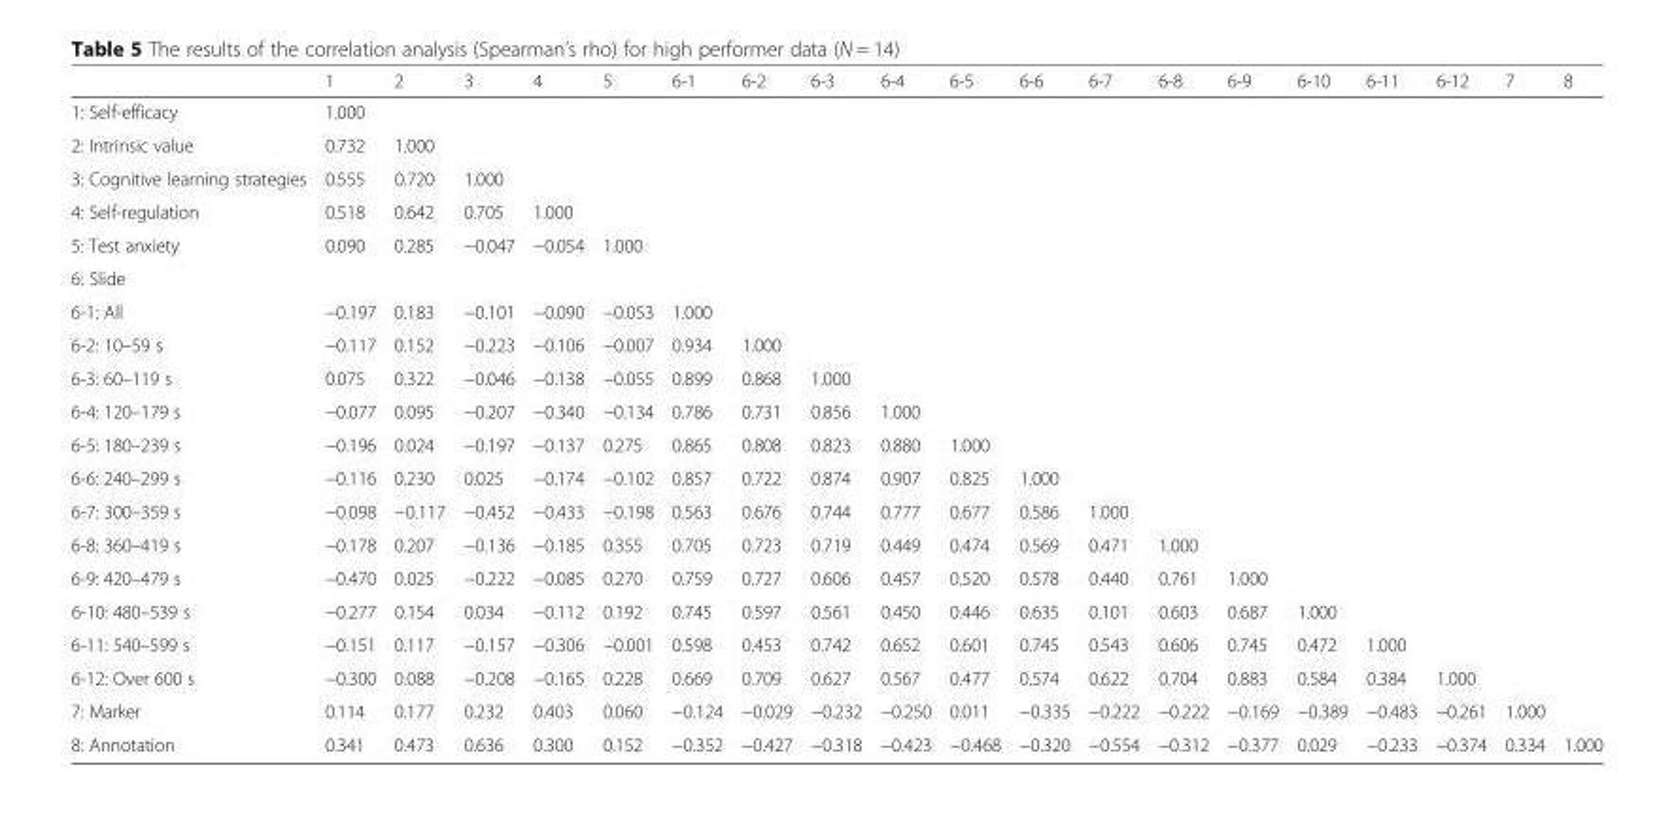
<table><thead><tr><td></td><td>1</td><td>2</td><td>3</td><td>4</td><td>5</td><td>6-1</td><td>6-2</td><td>6-3</td><td>6-4</td><td>6-5</td><td>6-6</td><td>6-7</td><td>6-8</td><td>6-9</td><td>6-10</td><td>6-11</td><td>6-12</td><td>7</td><td>8</td></tr></thead><tbody><tr><td>1: Self-efficacy</td><td>1.000</td><td></td><td></td><td></td><td></td><td></td><td></td><td></td><td></td><td></td><td></td><td></td><td></td><td></td><td></td><td></td><td></td><td></td><td></td></tr><tr><td>2: Intrinsic value</td><td>0.732</td><td>1.000</td><td></td><td></td><td></td><td></td><td></td><td></td><td></td><td></td><td></td><td></td><td></td><td></td><td></td><td></td><td></td><td></td><td></td></tr><tr><td>3: Cognitive learning strategies</td><td>0.555</td><td>0.720</td><td>1.000</td><td></td><td></td><td></td><td></td><td></td><td></td><td></td><td></td><td></td><td></td><td></td><td></td><td></td><td></td><td></td><td></td></tr><tr><td>4: Self-regulation</td><td>0.518</td><td>0.642</td><td>0.705</td><td>1.000</td><td></td><td></td><td></td><td></td><td></td><td></td><td></td><td></td><td></td><td></td><td></td><td></td><td></td><td></td><td></td></tr><tr><td>5: Test anxiety</td><td>0.090</td><td>0.285</td><td>−0.047</td><td>−0.054</td><td>1.000</td><td></td><td></td><td></td><td></td><td></td><td></td><td></td><td></td><td></td><td></td><td></td><td></td><td></td><td></td></tr><tr><td colspan="20">6: Slide</td></tr><tr><td>6-1: All</td><td>−0.197</td><td>0.183</td><td>−0.101</td><td>−0.090</td><td>−0.053</td><td>1.000</td><td></td><td></td><td></td><td></td><td></td><td></td><td></td><td></td><td></td><td></td><td></td><td></td><td></td></tr><tr><td>6-2: 10–59 s</td><td>−0.117</td><td>0.152</td><td>−0.223</td><td>−0.106</td><td>−0.007</td><td>0.934</td><td>1.000</td><td></td><td></td><td></td><td></td><td></td><td></td><td></td><td></td><td></td><td></td><td></td><td></td></tr><tr><td>6-3: 60–119 s</td><td>0.075</td><td>0.322</td><td>−0.046</td><td>−0.138</td><td>−0.055</td><td>0.899</td><td>0.868</td><td>1.000</td><td></td><td></td><td></td><td></td><td></td><td></td><td></td><td></td><td></td><td></td><td></td></tr><tr><td>6-4: 120–179 s</td><td>−0.077</td><td>0.095</td><td>−0.207</td><td>−0.340</td><td>−0.134</td><td>0.786</td><td>0.731</td><td>0.856</td><td>1.000</td><td></td><td></td><td></td><td></td><td></td><td></td><td></td><td></td><td></td><td></td></tr><tr><td>6-5: 180–239 s</td><td>−0.196</td><td>0.024</td><td>−0.197</td><td>−0.137</td><td>0.275</td><td>0.865</td><td>0.808</td><td>0.823</td><td>0.880</td><td>1.000</td><td></td><td></td><td></td><td></td><td></td><td></td><td></td><td></td><td></td></tr><tr><td>6-6: 240–299 s</td><td>−0.116</td><td>0.230</td><td>0.025</td><td>−0.174</td><td>−0.102</td><td>0.857</td><td>0.722</td><td>0.874</td><td>0.907</td><td>0.825</td><td>1.000</td><td></td><td></td><td></td><td></td><td></td><td></td><td></td><td></td></tr><tr><td>6-7: 300–359 s</td><td>−0.098</td><td>−0.117</td><td>−0.452</td><td>−0.433</td><td>−0.198</td><td>0.563</td><td>0.676</td><td>0.744</td><td>0.777</td><td>0.677</td><td>0.586</td><td>1.000</td><td></td><td></td><td></td><td></td><td></td><td></td><td></td></tr><tr><td>6-8: 360–419 s</td><td>−0.178</td><td>0.207</td><td>−0.136</td><td>−0.185</td><td>0.355</td><td>0.705</td><td>0.723</td><td>0.719</td><td>0.449</td><td>0.474</td><td>0.569</td><td>0.471</td><td>1.000</td><td></td><td></td><td></td><td></td><td></td><td></td></tr><tr><td>6-9: 420–479 s</td><td>−0.470</td><td>0.025</td><td>−0.222</td><td>−0.085</td><td>0.270</td><td>0.759</td><td>0.727</td><td>0.606</td><td>0.457</td><td>0.520</td><td>0.578</td><td>0.440</td><td>0.761</td><td>1.000</td><td></td><td></td><td></td><td></td><td></td></tr><tr><td>6-10: 480–539 s</td><td>−0.277</td><td>0.154</td><td>0.034</td><td>−0.112</td><td>0.192</td><td>0.745</td><td>0.597</td><td>0.561</td><td>0.450</td><td>0.446</td><td>0.635</td><td>0.101</td><td>0.603</td><td>0.687</td><td>1.000</td><td></td><td></td><td></td><td></td></tr><tr><td>6-11: 540–599 s</td><td>−0.151</td><td>0.117</td><td>−0.157</td><td>−0.306</td><td>−0.001</td><td>0.598</td><td>0.453</td><td>0.742</td><td>0.652</td><td>0.601</td><td>0.745</td><td>0.543</td><td>0.606</td><td>0.745</td><td>0.472</td><td>1.000</td><td></td><td></td><td></td></tr><tr><td>6-12: Over 600 s</td><td>−0.300</td><td>0.088</td><td>−0.208</td><td>−0.165</td><td>0.228</td><td>0.669</td><td>0.709</td><td>0.627</td><td>0.567</td><td>0.477</td><td>0.574</td><td>0.622</td><td>0.704</td><td>0.883</td><td>0.584</td><td>0.384</td><td>1.000</td><td></td><td></td></tr><tr><td>7: Marker</td><td>0.114</td><td>0.177</td><td>0.232</td><td>0.403</td><td>0.060</td><td>−0.124</td><td>−0.029</td><td>−0.232</td><td>−0.250</td><td>0.011</td><td>−0.335</td><td>−0.222</td><td>−0.222</td><td>−0.169</td><td>−0.389</td><td>−0.483</td><td>−0.261</td><td>1.000</td><td></td></tr><tr><td>8: Annotation</td><td>0.341</td><td>0.473</td><td>0.636</td><td>0.300</td><td>0.152</td><td>−0.352</td><td>−0.427</td><td>−0.318</td><td>−0.423</td><td>−0.468</td><td>−0.320</td><td>−0.554</td><td>−0.312</td><td>−0.377</td><td>0.029</td><td>−0.233</td><td>−0.374</td><td>0.334</td><td>1.000</td></tr></tbody></table>